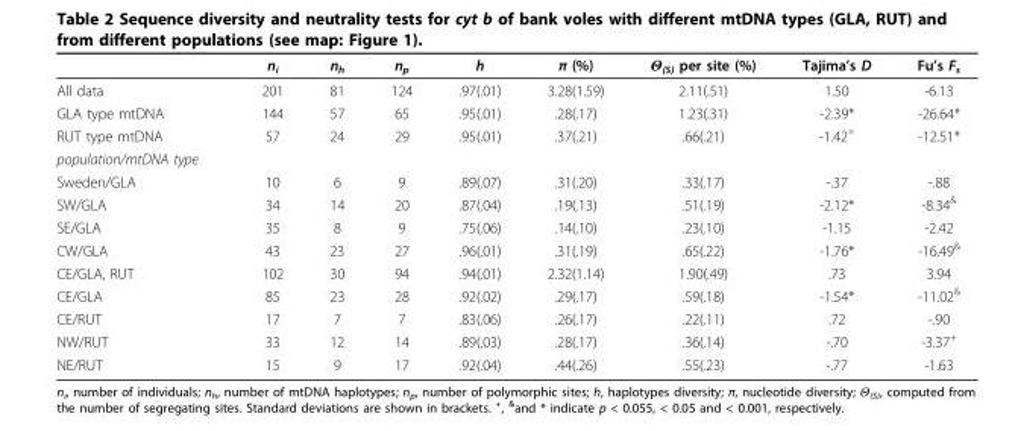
<table><thead><tr><td></td><td>n<sub>i</sub></td><td>n<sub>h</sub></td><td>n<sub>p</sub></td><td>h</td><td>π (%)</td><td>Θ<sub>(S)</sub> per site (%)</td><td>Tajima’s D</td><td>Fu’s F<sub>s</sub></td></tr></thead><tbody><tr><td>All data</td><td>201</td><td>81</td><td>124</td><td>.97(.01)</td><td>3.28(1.59)</td><td>2.11(.51)</td><td>1.50</td><td>-6.13</td></tr><tr><td>GLA type mtDNA</td><td>144</td><td>57</td><td>65</td><td>.95(.01)</td><td>.28(.17)</td><td>1.23(.31)</td><td>-2.39*</td><td>-26.64*</td></tr><tr><td>RUT type mtDNA</td><td>57</td><td>24</td><td>29</td><td>.95(.01)</td><td>.37(.21)</td><td>.66(.21)</td><td>-1.42<sup>+</sup></td><td>-12.51*</td></tr><tr><td colspan="9">population/mtDNA type</td></tr><tr><td>Sweden/GLA</td><td>10</td><td>6</td><td>9</td><td>.89(.07)</td><td>.31(.20)</td><td>.33(.17)</td><td>-.37</td><td>-.88</td></tr><tr><td>SW/GLA</td><td>34</td><td>14</td><td>20</td><td>.87(.04)</td><td>.19(.13)</td><td>.51(.19)</td><td>-2.12*</td><td>-8.34<sup>&amp;</sup></td></tr><tr><td>SE/GLA</td><td>35</td><td>8</td><td>9</td><td>.75(.06)</td><td>.14(.10)</td><td>.23(.10)</td><td>-1.15</td><td>-2.42</td></tr><tr><td>CW/GLA</td><td>43</td><td>23</td><td>27</td><td>.96(.01)</td><td>.31(.19)</td><td>.65(.22)</td><td>-1.76*</td><td>-16.49<sup>&amp;</sup></td></tr><tr><td>CE/GLA, RUT</td><td>102</td><td>30</td><td>94</td><td>.94(.01)</td><td>2.32(1.14)</td><td>1.90(.49)</td><td>.73</td><td>3.94</td></tr><tr><td>CE/GLA</td><td>85</td><td>23</td><td>28</td><td>.92(.02)</td><td>.29(.17)</td><td>.59(.18)</td><td>-1.54*</td><td>-11.02<sup>&amp;</sup></td></tr><tr><td>CE/RUT</td><td>17</td><td>7</td><td>7</td><td>.83(.06)</td><td>.26(.17)</td><td>.22(.11)</td><td>.72</td><td>-.90</td></tr><tr><td>NW/RUT</td><td>33</td><td>12</td><td>14</td><td>.89(.03)</td><td>.28(.17)</td><td>.36(.14)</td><td>-.70</td><td>-3.37<sup>+</sup></td></tr><tr><td>NE/RUT</td><td>15</td><td>9</td><td>17</td><td>.92(.04)</td><td>.44(.26)</td><td>.55(.23)</td><td>-.77</td><td>-1.63</td></tr></tbody></table>